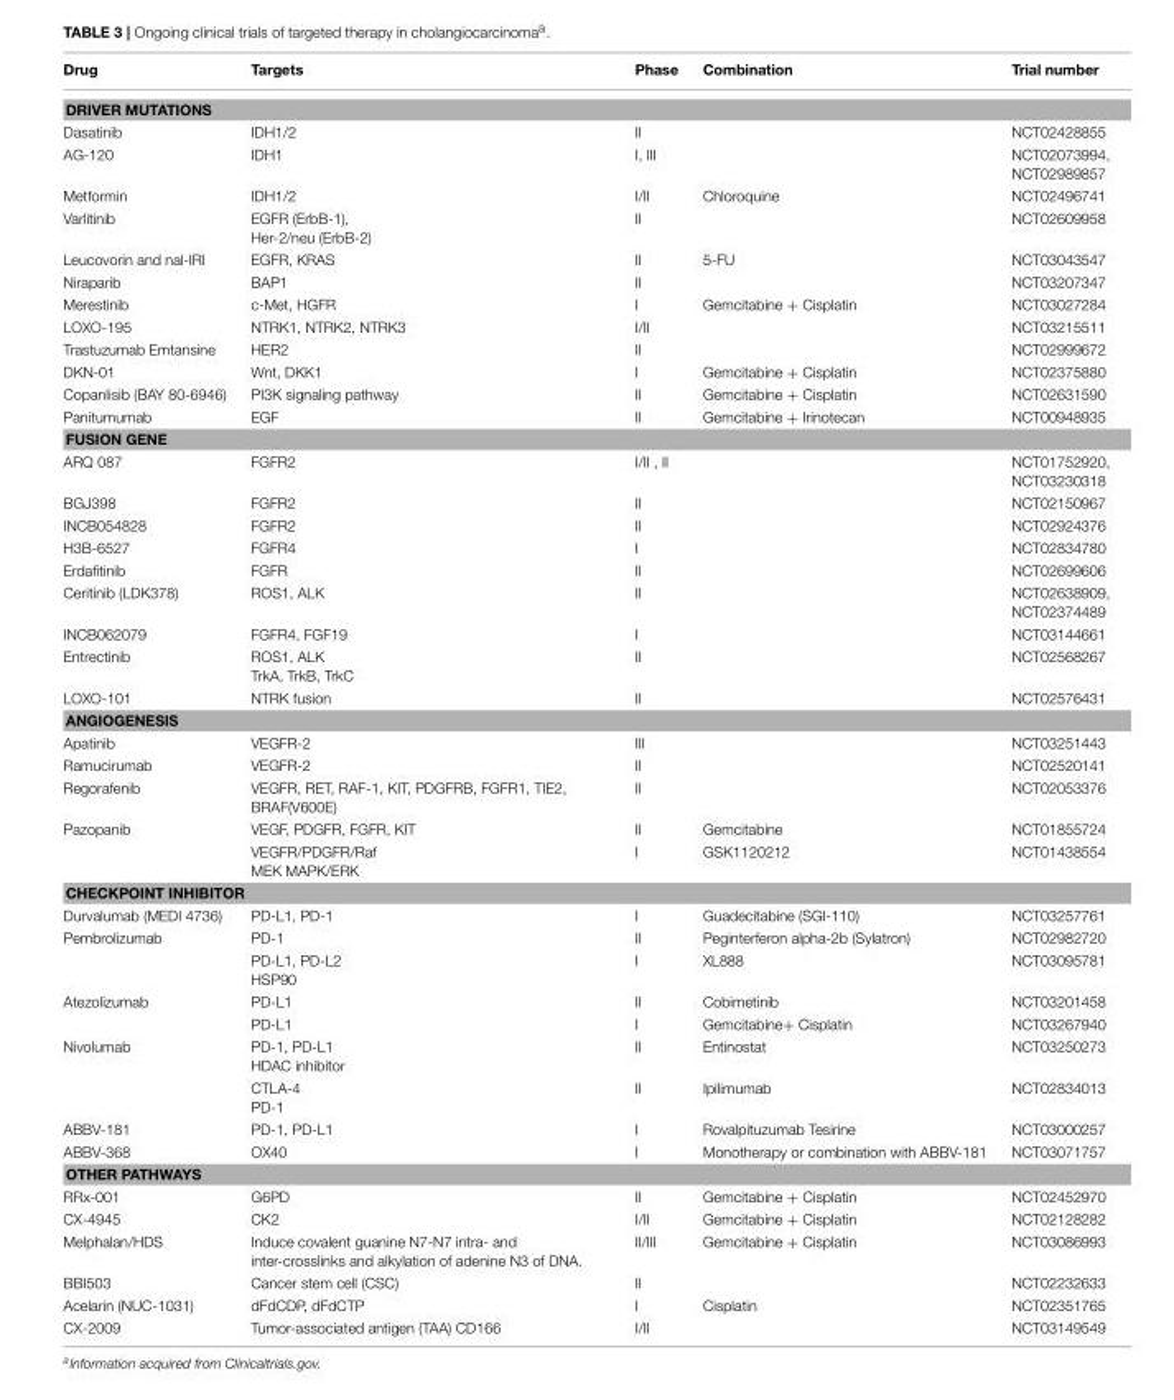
<table><thead><tr><td>Drug</td><td>Targets</td><td>Phase</td><td>Combination</td><td>Trial number</td></tr></thead><tbody><tr><td colspan="5">DRIVER MUTATIONS</td></tr><tr><td>Dasatinib</td><td>IDH1/2</td><td>II</td><td></td><td>NCT02428855</td></tr><tr><td>AG-120</td><td>IDH1</td><td>I, III</td><td></td><td>NCT02073994, NCT02989857</td></tr><tr><td>Metformin</td><td>IDH1/2</td><td>I/II</td><td>Chloroquine</td><td>NCT02496741</td></tr><tr><td>Varlitinib</td><td>EGFR (ErbB-1), Her-2/neu (ErbB-2)</td><td>II</td><td></td><td>NCT02609958</td></tr><tr><td>Leucovorin and nal-IRI</td><td>EGFR, KRAS</td><td>II</td><td>5-FU</td><td>NCT03043547</td></tr><tr><td>Niraparib</td><td>BAP1</td><td>II</td><td></td><td>NCT03207347</td></tr><tr><td>Merestinib</td><td>c-Met, HGFR</td><td>I</td><td>Gemcitabine + Cisplatin</td><td>NCT03027284</td></tr><tr><td>LOXO-195</td><td>NTRK1, NTRK2, NTRK3</td><td>I/II</td><td></td><td>NCT03215511</td></tr><tr><td>Trastuzumab Emtansine</td><td>HER2</td><td>II</td><td></td><td>NCT02999672</td></tr><tr><td>DKN-01</td><td>Wnt, DKK1</td><td>I</td><td>Gemcitabine + Cisplatin</td><td>NCT02375880</td></tr><tr><td>Copanlisib (BAY 80-6946)</td><td>PI3K signaling pathway</td><td>II</td><td>Gemcitabine + Cisplatin</td><td>NCT02631590</td></tr><tr><td>Panitumumab</td><td>EGF</td><td>II</td><td>Gemcitabine + Irinotecan</td><td>NCT00948935</td></tr><tr><td colspan="5">FUSION GENE</td></tr><tr><td>ARQ 087</td><td>FGFR2</td><td>I/II , II</td><td></td><td>NCT01752920, NCT03230318</td></tr><tr><td>BGJ398</td><td>FGFR2</td><td>II</td><td></td><td>NCT02150967</td></tr><tr><td>INCB054828</td><td>FGFR2</td><td>II</td><td></td><td>NCT02924376</td></tr><tr><td>H3B-6527</td><td>FGFR4</td><td>I</td><td></td><td>NCT02834780</td></tr><tr><td>Erdafitinib</td><td>FGFR</td><td>II</td><td></td><td>NCT02699606</td></tr><tr><td>Ceritinib (LDK378)</td><td>ROS1, ALK</td><td>II</td><td></td><td>NCT02638909, NCT02374489</td></tr><tr><td>INCB062079</td><td>FGFR4, FGF19</td><td>I</td><td></td><td>NCT03144661</td></tr><tr><td>Entrectinib</td><td>ROS1, ALK TrkA, TrkB, TrkC</td><td>II</td><td></td><td>NCT02568267</td></tr><tr><td>LOXO-101</td><td>NTRK fusion</td><td>II</td><td></td><td>NCT02576431</td></tr><tr><td colspan="5">ANGIOGENESIS</td></tr><tr><td>Apatinib</td><td>VEGFR-2</td><td>III</td><td></td><td>NCT03251443</td></tr><tr><td>Ramucirumab</td><td>VEGFR-2</td><td>II</td><td></td><td>NCT02520141</td></tr><tr><td>Regorafenib</td><td>VEGFR, RET, RAF-1, KIT, PDGFRB, FGFR1, TIE2, BRAF(V600E)</td><td>II</td><td></td><td>NCT02053376</td></tr><tr><td rowspan="2">Pazopanib</td><td>VEGF, PDGFR, FGFR, KIT</td><td>II</td><td>Gemcitabine</td><td>NCT01855724</td></tr><tr><td>VEGFR/PDGFR/Raf MEK MAPK/ERK</td><td>I</td><td>GSK1120212</td><td>NCT01438554</td></tr><tr><td colspan="5">CHECKPOINT INHIBITOR</td></tr><tr><td>Durvalumab (MEDI 4736)</td><td>PD-L1, PD-1</td><td>I</td><td>Guadecitabine (SGI-110)</td><td>NCT03257761</td></tr><tr><td rowspan="2">Pembrolizumab</td><td>PD-1</td><td>II</td><td>Peginterferon alpha-2b (Sylatron)</td><td>NCT02982720</td></tr><tr><td>PD-L1, PD-L2 HSP90</td><td>I</td><td>XL888</td><td>NCT03095781</td></tr><tr><td rowspan="2">Atezolizumab</td><td>PD-L1</td><td>II</td><td>Cobimetinib</td><td>NCT03201458</td></tr><tr><td>PD-L1</td><td>I</td><td>Gemcitabine+ Cisplatin</td><td>NCT03267940</td></tr><tr><td rowspan="2">Nivolumab</td><td>PD-1, PD-L1 HDAC inhibitor</td><td>II</td><td>Entinostat</td><td>NCT03250273</td></tr><tr><td>CTLA-4 PD-1</td><td>II</td><td>Ipilimumab</td><td>NCT02834013</td></tr><tr><td>ABBV-181</td><td>PD-1, PD-L1</td><td>I</td><td>Rovalpituzumab Tesirine</td><td>NCT03000257</td></tr><tr><td>ABBV-368</td><td>OX40</td><td>I</td><td>Monotherapy or combination with ABBV-181</td><td>NCT03071757</td></tr><tr><td colspan="5">OTHER PATHWAYS</td></tr><tr><td>RRx-001</td><td>G6PD</td><td>II</td><td>Gemcitabine + Cisplatin</td><td>NCT02452970</td></tr><tr><td>CX-4945</td><td>CK2</td><td>I/II</td><td>Gemcitabine + Cisplatin</td><td>NCT02128282</td></tr><tr><td>Melphalan/HDS</td><td>Induce covalent guanine N7-N7 intra- and inter-crosslinks and alkylation of adenine N3 of DNA.</td><td>II/III</td><td>Gemcitabine + Cisplatin</td><td>NCT03086993</td></tr><tr><td>BBI503</td><td>Cancer stem cell (CSC)</td><td>II</td><td></td><td>NCT02232633</td></tr><tr><td>Acelarin (NUC-1031)</td><td>dFdCDP, dFdCTP</td><td>I</td><td>Cisplatin</td><td>NCT02351765</td></tr><tr><td>CX-2009</td><td>Tumor-associated antigen (TAA) CD166</td><td>I/II</td><td></td><td>NCT03149549</td></tr></tbody></table>